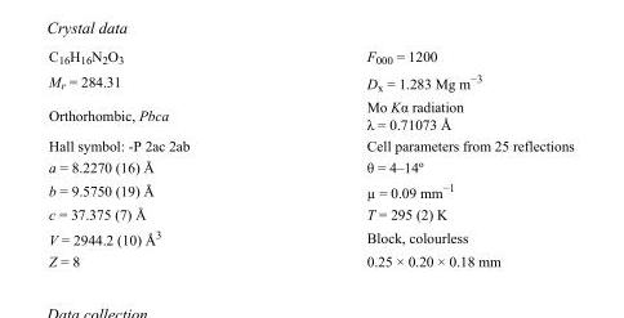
<table><tbody><tr><td>C<sub>16</sub>H<sub>16</sub>N<sub>2</sub>O<sub>3</sub></td><td>F<sub>000</sub> = 1200</td></tr><tr><td>M<sub>r</sub> = 284.31</td><td>D<sub>x</sub> = 1.283 Mg m<sup>−3</sup></td></tr><tr><td>Orthorhombic, Pbca</td><td>Mo Kα radiation λ = 0.71073 Å</td></tr><tr><td>Hall symbol: -P 2ac 2ab</td><td>Cell parameters from 25 reflections</td></tr><tr><td>a = 8.2270 (16) Å</td><td>θ = 4–14º</td></tr><tr><td>b = 9.5750 (19) Å</td><td>µ = 0.09 mm<sup>−1</sup></td></tr><tr><td>c = 37.375 (7) Å</td><td>T = 295 (2) K</td></tr><tr><td>V = 2944.2 (10) Å<sup>3</sup></td><td>Block, colourless</td></tr><tr><td>Z = 8</td><td>0.25 × 0.20 × 0.18 mm</td></tr></tbody></table>